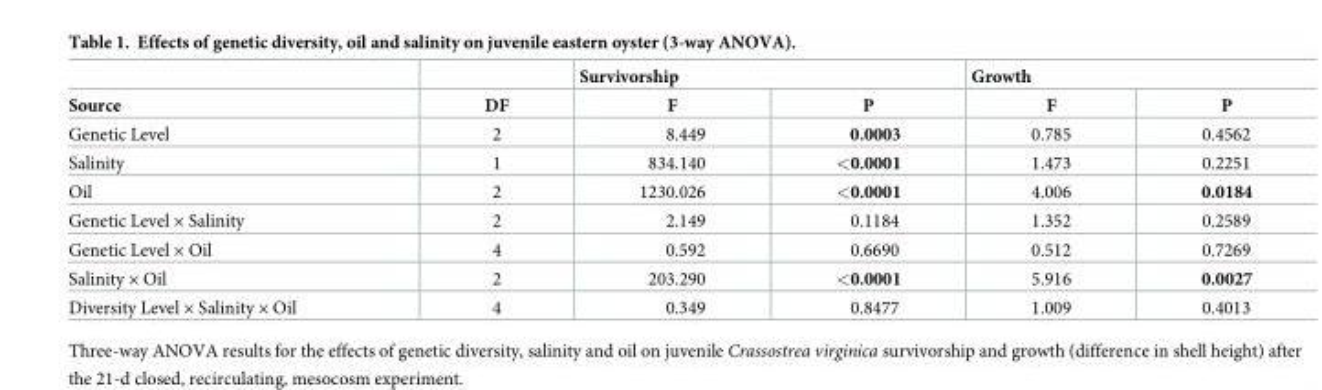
<table><thead><tr><td rowspan="2">Source</td><td rowspan="2">DF</td><td colspan="2">Survivorship</td><td colspan="2">Growth</td></tr><tr><td>F</td><td>P</td><td>F</td><td>P</td></tr></thead><tbody><tr><td>Genetic Level</td><td>2</td><td>8.449</td><td>0.0003</td><td>0.785</td><td>0.4562</td></tr><tr><td>Salinity</td><td>1</td><td>834.140</td><td>&lt;0.0001</td><td>1.473</td><td>0.2251</td></tr><tr><td>Oil</td><td>2</td><td>1230.026</td><td>&lt;0.0001</td><td>4.006</td><td>0.0184</td></tr><tr><td>Genetic Level × Salinity</td><td>2</td><td>2.149</td><td>0.1184</td><td>1.352</td><td>0.2589</td></tr><tr><td>Genetic Level × Oil</td><td>4</td><td>0.592</td><td>0.6690</td><td>0.512</td><td>0.7269</td></tr><tr><td>Salinity × Oil</td><td>2</td><td>203.290</td><td>&lt;0.0001</td><td>5.916</td><td>0.0027</td></tr><tr><td>Diversity Level × Salinity × Oil</td><td>4</td><td>0.349</td><td>0.8477</td><td>1.009</td><td>0.4013</td></tr></tbody></table>